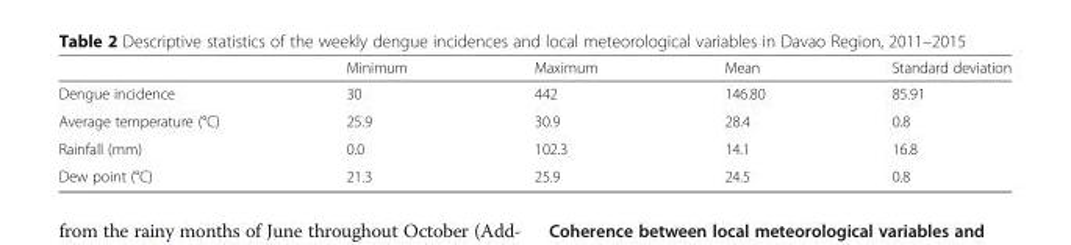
<table><thead><tr><td></td><td>Minimum</td><td>Maximum</td><td>Mean</td><td>Standard deviation</td></tr></thead><tbody><tr><td>Dengue incidence</td><td>30</td><td>442</td><td>146.80</td><td>85.91</td></tr><tr><td>Average temperature (°C)</td><td>25.9</td><td>30.9</td><td>28.4</td><td>0.8</td></tr><tr><td>Rainfall (mm)</td><td>0.0</td><td>102.3</td><td>14.1</td><td>16.8</td></tr><tr><td>Dew point (°C)</td><td>21.3</td><td>25.9</td><td>24.5</td><td>0.8</td></tr></tbody></table>